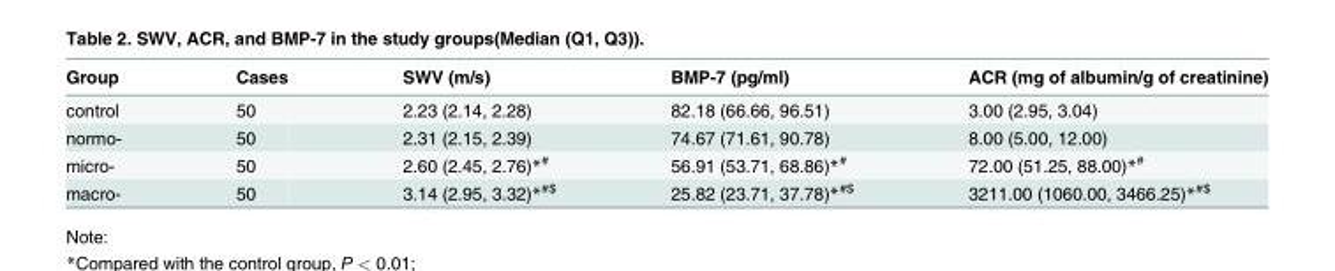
<table><thead><tr><td>Group</td><td>Cases</td><td>SWV (m/s)</td><td>BMP-7 (pg/ml)</td><td>ACR (mg of albumin/g of creatinine)</td></tr></thead><tbody><tr><td>control</td><td>50</td><td>2.23 (2.14, 2.28)</td><td>82.18 (66.66, 96.51)</td><td>3.00 (2.95, 3.04)</td></tr><tr><td>normo-</td><td>50</td><td>2.31 (2.15, 2.39)</td><td>74.67 (71.61, 90.78)</td><td>8.00 (5.00, 12.00)</td></tr><tr><td>micro-</td><td>50</td><td>2.60 (2.45, 2.76)*<sup>#</sup></td><td>56.91 (53.71, 68.86)*<sup>#</sup></td><td>72.00 (51.25, 88.00)*<sup>#</sup></td></tr><tr><td>macro-</td><td>50</td><td>3.14 (2.95, 3.32)*<sup>#$</sup></td><td>25.82 (23.71, 37.78)*<sup>#$</sup></td><td>3211.00 (1060.00, 3466.25)*<sup>#$</sup></td></tr></tbody></table>